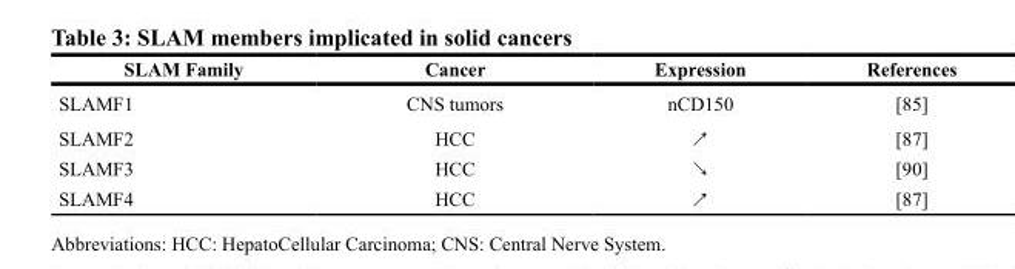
<table><thead><tr><td>SLAM Family</td><td>Cancer</td><td>Expression</td><td>References</td></tr></thead><tbody><tr><td>SLAMF1</td><td>CNS tumors</td><td>nCD150</td><td>[85]</td></tr><tr><td>SLAMF2</td><td>HCC</td><td>↗</td><td>[87]</td></tr><tr><td>SLAMF3</td><td>HCC</td><td>↘</td><td>[90]</td></tr><tr><td>SLAMF4</td><td>HCC</td><td>↗</td><td>[87]</td></tr></tbody></table>